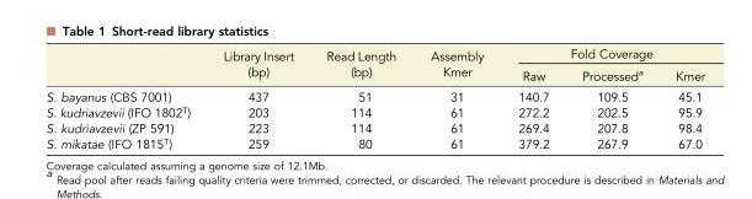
<table><thead><tr><td rowspan="2"></td><td rowspan="2">Library Insert (bp)</td><td rowspan="2">Read Length (bp)</td><td rowspan="2">Assembly Kmer</td><td colspan="3">Fold Coverage</td></tr><tr><td>Raw</td><td>Processeda</td><td>Kmer</td></tr></thead><tbody><tr><td>S. bayanus (CBS 7001)</td><td>437</td><td>51</td><td>31</td><td>140.7</td><td>109.5</td><td>45.1</td></tr><tr><td>S. kudriavzevii (IFO 1802<sup>T</sup>)</td><td>203</td><td>114</td><td>61</td><td>272.2</td><td>202.5</td><td>95.9</td></tr><tr><td>S. kudriavzevii (ZP 591)</td><td>223</td><td>114</td><td>61</td><td>269.4</td><td>207.8</td><td>98.4</td></tr><tr><td>S. mikatae (IFO 1815<sup>T</sup>)</td><td>259</td><td>80</td><td>61</td><td>379.2</td><td>267.9</td><td>67.0</td></tr></tbody></table>